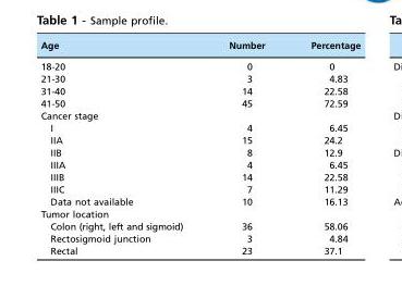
<table><thead><tr><td>Age</td><td>Number</td><td>Percentage</td></tr></thead><tbody><tr><td>18-20</td><td>0</td><td>0</td></tr><tr><td>21-30</td><td>3</td><td>4.83</td></tr><tr><td>31-40</td><td>14</td><td>22.58</td></tr><tr><td>41-50</td><td>45</td><td>72.59</td></tr><tr><td colspan="3">Cancer stage</td></tr><tr><td>I</td><td>4</td><td>6.45</td></tr><tr><td>IIA</td><td>15</td><td>24.2</td></tr><tr><td>IIB</td><td>8</td><td>12.9</td></tr><tr><td>IIIA</td><td>4</td><td>6.45</td></tr><tr><td>IIIB</td><td>14</td><td>22.58</td></tr><tr><td>IIIC</td><td>7</td><td>11.29</td></tr><tr><td>Data not available</td><td>10</td><td>16.13</td></tr><tr><td colspan="3">Tumor location</td></tr><tr><td>Colon (right, left and sigmoid)</td><td>36</td><td>58.06</td></tr><tr><td>Rectosigmoid junction</td><td>3</td><td>4.84</td></tr><tr><td>Rectal</td><td>23</td><td>37.1</td></tr></tbody></table>